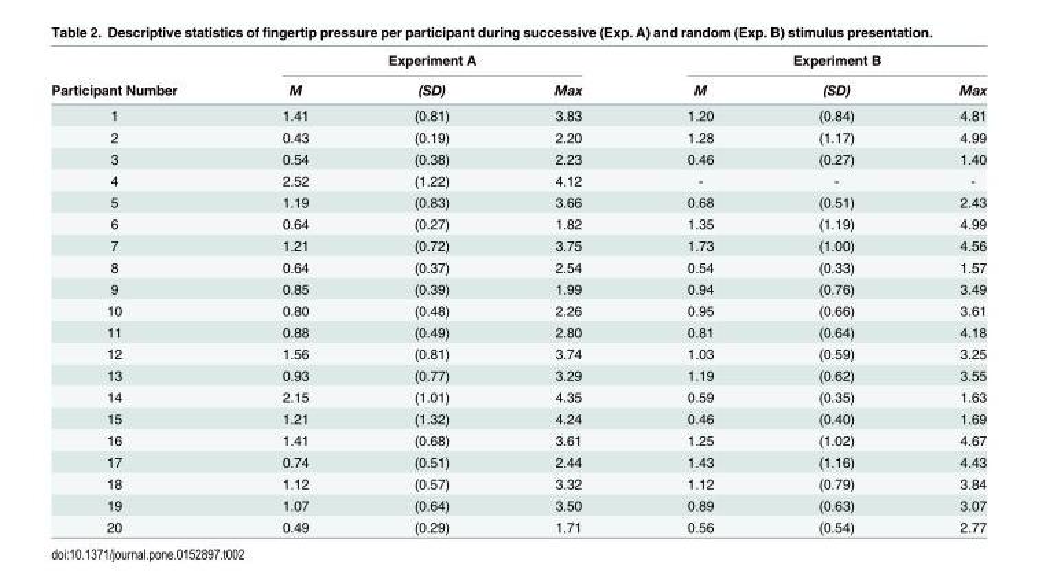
<table><thead><tr><td rowspan="2">Participant Number</td><td colspan="3">Experiment A</td><td colspan="3">Experiment B</td></tr><tr><td>M</td><td>(SD)</td><td>Max</td><td>M</td><td>(SD)</td><td>Max</td></tr></thead><tbody><tr><td>1</td><td>1.41</td><td>(0.81)</td><td>3.83</td><td>1.20</td><td>(0.84)</td><td>4.81</td></tr><tr><td>2</td><td>0.43</td><td>(0.19)</td><td>2.20</td><td>1.28</td><td>(1.17)</td><td>4.99</td></tr><tr><td>3</td><td>0.54</td><td>(0.38)</td><td>2.23</td><td>0.46</td><td>(0.27)</td><td>1.40</td></tr><tr><td>4</td><td>2.52</td><td>(1.22)</td><td>4.12</td><td>-</td><td>-</td><td>-</td></tr><tr><td>5</td><td>1.19</td><td>(0.83)</td><td>3.66</td><td>0.68</td><td>(0.51)</td><td>2.43</td></tr><tr><td>6</td><td>0.64</td><td>(0.27)</td><td>1.82</td><td>1.35</td><td>(1.19)</td><td>4.99</td></tr><tr><td>7</td><td>1.21</td><td>(0.72)</td><td>3.75</td><td>1.73</td><td>(1.00)</td><td>4.56</td></tr><tr><td>8</td><td>0.64</td><td>(0.37)</td><td>2.54</td><td>0.54</td><td>(0.33)</td><td>1.57</td></tr><tr><td>9</td><td>0.85</td><td>(0.39)</td><td>1.99</td><td>0.94</td><td>(0.76)</td><td>3.49</td></tr><tr><td>10</td><td>0.80</td><td>(0.48)</td><td>2.26</td><td>0.95</td><td>(0.66)</td><td>3.61</td></tr><tr><td>11</td><td>0.88</td><td>(0.49)</td><td>2.80</td><td>0.81</td><td>(0.64)</td><td>4.18</td></tr><tr><td>12</td><td>1.56</td><td>(0.81)</td><td>3.74</td><td>1.03</td><td>(0.59)</td><td>3.25</td></tr><tr><td>13</td><td>0.93</td><td>(0.77)</td><td>3.29</td><td>1.19</td><td>(0.62)</td><td>3.55</td></tr><tr><td>14</td><td>2.15</td><td>(1.01)</td><td>4.35</td><td>0.59</td><td>(0.35)</td><td>1.63</td></tr><tr><td>15</td><td>1.21</td><td>(1.32)</td><td>4.24</td><td>0.46</td><td>(0.40)</td><td>1.69</td></tr><tr><td>16</td><td>1.41</td><td>(0.68)</td><td>3.61</td><td>1.25</td><td>(1.02)</td><td>4.67</td></tr><tr><td>17</td><td>0.74</td><td>(0.51)</td><td>2.44</td><td>1.43</td><td>(1.16)</td><td>4.43</td></tr><tr><td>18</td><td>1.12</td><td>(0.57)</td><td>3.32</td><td>1.12</td><td>(0.79)</td><td>3.84</td></tr><tr><td>19</td><td>1.07</td><td>(0.64)</td><td>3.50</td><td>0.89</td><td>(0.63)</td><td>3.07</td></tr><tr><td>20</td><td>0.49</td><td>(0.29)</td><td>1.71</td><td>0.56</td><td>(0.54)</td><td>2.77</td></tr></tbody></table>